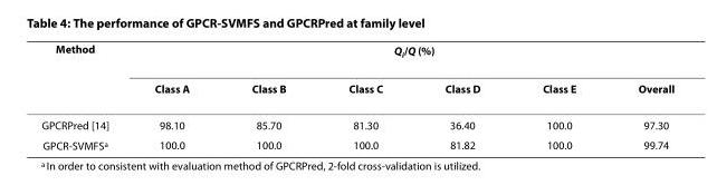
<table><thead><tr><td rowspan="2">Method</td><td colspan="6">Q<sub>i</sub>/Q (%)</td></tr><tr><td>Class A</td><td>Class B</td><td>Class C</td><td>Class D</td><td>Class E</td><td>Overall</td></tr></thead><tbody><tr><td>GPCRPred [14]</td><td>98.10</td><td>85.70</td><td>81.30</td><td>36.40</td><td>100.0</td><td>97.30</td></tr><tr><td>GPCR-SVMFS<sup>a</sup></td><td>100.0</td><td>100.0</td><td>100.0</td><td>81.82</td><td>100.0</td><td>99.74</td></tr></tbody></table>